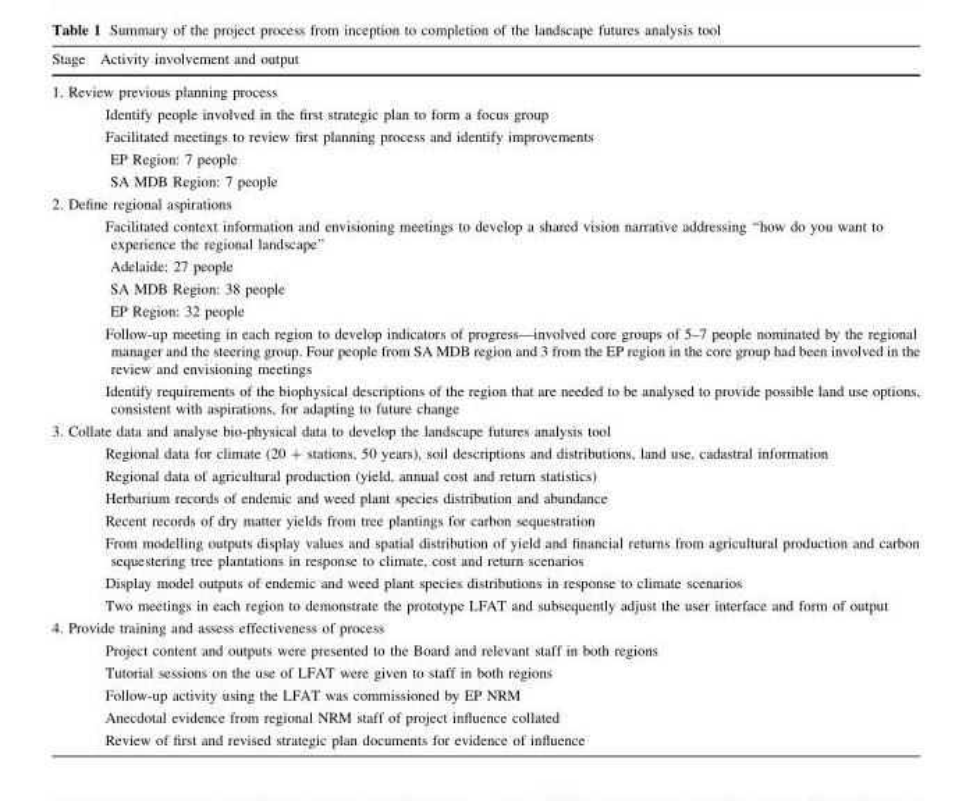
<table><thead><tr><td>Stage</td><td>Activity involvement and output</td></tr></thead><tbody><tr><td colspan="2">1. Review previous planning process</td></tr><tr><td rowspan="4"></td><td>Identify people involved in the first strategic plan to form a focus group</td></tr><tr><td>Facilitated meetings to review first planning process and identify improvements</td></tr><tr><td>EP Region: 7 people</td></tr><tr><td>SA MDB Region: 7 people</td></tr><tr><td colspan="2">2. Define regional aspirations</td></tr><tr><td rowspan="6"></td><td>Facilitated context information and envisioning meetings to develop a shared vision narrative addressing ‘‘how do you want to experience the regional landscape’’</td></tr><tr><td>Adelaide: 27 people</td></tr><tr><td>SA MDB Region: 38 people</td></tr><tr><td>EP Region: 32 people</td></tr><tr><td>Follow-up meeting in each region to develop indicators of progress—involved core groups of 5–7 people nominated by the regional manager and the steering group. Four people from SA MDB region and 3 from the EP region in the core group had been involved in the review and envisioning meetings</td></tr><tr><td>Identify requirements of the biophysical descriptions of the region that are needed to be analysed to provide possible land use options, consistent with aspirations, for adapting to future change</td></tr><tr><td colspan="2">3. Collate data and analyse bio-physical data to develop the landscape futures analysis tool</td></tr><tr><td rowspan="7"></td><td>Regional data for climate (20 + stations, 50 years), soil descriptions and distributions, land use, cadastral information</td></tr><tr><td>Regional data of agricultural production (yield, annual cost and return statistics)</td></tr><tr><td>Herbarium records of endemic and weed plant species distribution and abundance</td></tr><tr><td>Recent records of dry matter yields from tree plantings for carbon sequestration</td></tr><tr><td>From modelling outputs display values and spatial distribution of yield and financial returns from agricultural production and carbon sequestering tree plantations in response to climate, cost and return scenarios</td></tr><tr><td>Display model outputs of endemic and weed plant species distributions in response to climate scenarios</td></tr><tr><td>Two meetings in each region to demonstrate the prototype LFAT and subsequently adjust the user interface and form of output</td></tr><tr><td colspan="2">4. Provide training and assess effectiveness of process</td></tr><tr><td rowspan="5"></td><td>Project content and outputs were presented to the Board and relevant staff in both regions</td></tr><tr><td>Tutorial sessions on the use of LFAT were given to staff in both regions</td></tr><tr><td>Follow-up activity using the LFAT was commissioned by EP NRM</td></tr><tr><td>Anecdotal evidence from regional NRM staff of project influence collated</td></tr><tr><td>Review of first and revised strategic plan documents for evidence of influence</td></tr></tbody></table>